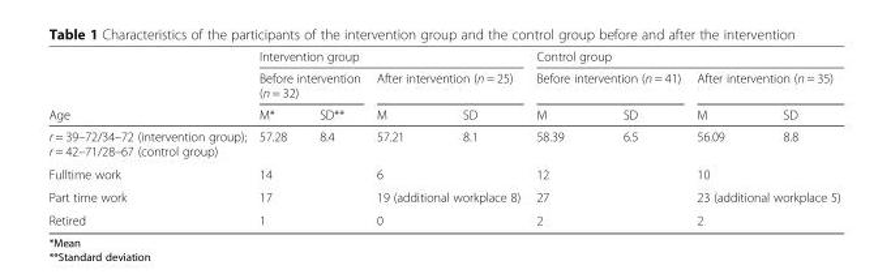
<table><thead><tr><td rowspan="3">Age</td><td colspan="4">Intervention group</td><td colspan="4">Control group</td></tr><tr><td colspan="2">Before intervention (n = 32)</td><td colspan="2">After intervention (n = 25)</td><td colspan="2">Before intervention (n = 41)</td><td colspan="2">After intervention (n = 35)</td></tr><tr><td>M*</td><td>SD**</td><td>M</td><td>SD</td><td>M</td><td>SD</td><td>M</td><td>SD</td></tr></thead><tbody><tr><td>r = 39–72/34–72 (intervention group); r = 42–71/28–67 (control group)</td><td>57.28</td><td>8.4</td><td>57.21</td><td>8.1</td><td>58.39</td><td>6.5</td><td>56.09</td><td>8.8</td></tr><tr><td>Fulltime work</td><td colspan="2">14</td><td colspan="2">6</td><td colspan="2">12</td><td colspan="2">10</td></tr><tr><td>Part time work</td><td colspan="2">17</td><td colspan="2">19 (additional workplace 8)</td><td colspan="2">27</td><td colspan="2">23 (additional workplace 5)</td></tr><tr><td>Retired</td><td colspan="2">1</td><td colspan="2">0</td><td colspan="2">2</td><td colspan="2">2</td></tr></tbody></table>